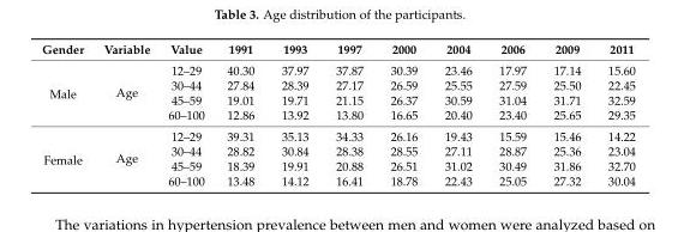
<table><thead><tr><td>Gender</td><td>Variable</td><td>Value</td><td>1991</td><td>1993</td><td>1997</td><td>2000</td><td>2004</td><td>2006</td><td>2009</td><td>2011</td></tr></thead><tbody><tr><td rowspan="4">Male</td><td rowspan="4">Age</td><td>12–29</td><td>40.30</td><td>37.97</td><td>37.87</td><td>30.39</td><td>23.46</td><td>17.97</td><td>17.14</td><td>15.60</td></tr><tr><td>30–44</td><td>27.84</td><td>28.39</td><td>27.17</td><td>26.59</td><td>25.55</td><td>27.59</td><td>25.50</td><td>22.45</td></tr><tr><td>45–59</td><td>19.01</td><td>19.71</td><td>21.15</td><td>26.37</td><td>30.59</td><td>31.04</td><td>31.71</td><td>32.59</td></tr><tr><td>60–100</td><td>12.86</td><td>13.92</td><td>13.80</td><td>16.65</td><td>20.40</td><td>23.40</td><td>25.65</td><td>29.35</td></tr><tr><td rowspan="4">Female</td><td rowspan="4">Age</td><td>12–29</td><td>39.31</td><td>35.13</td><td>34.33</td><td>26.16</td><td>19.43</td><td>15.59</td><td>15.46</td><td>14.22</td></tr><tr><td>30–44</td><td>28.82</td><td>30.84</td><td>28.38</td><td>28.55</td><td>27.11</td><td>28.87</td><td>25.36</td><td>23.04</td></tr><tr><td>45–59</td><td>18.39</td><td>19.91</td><td>20.88</td><td>26.51</td><td>31.02</td><td>30.49</td><td>31.86</td><td>32.70</td></tr><tr><td>60–100</td><td>13.48</td><td>14.12</td><td>16.41</td><td>18.78</td><td>22.43</td><td>25.05</td><td>27.32</td><td>30.04</td></tr></tbody></table>